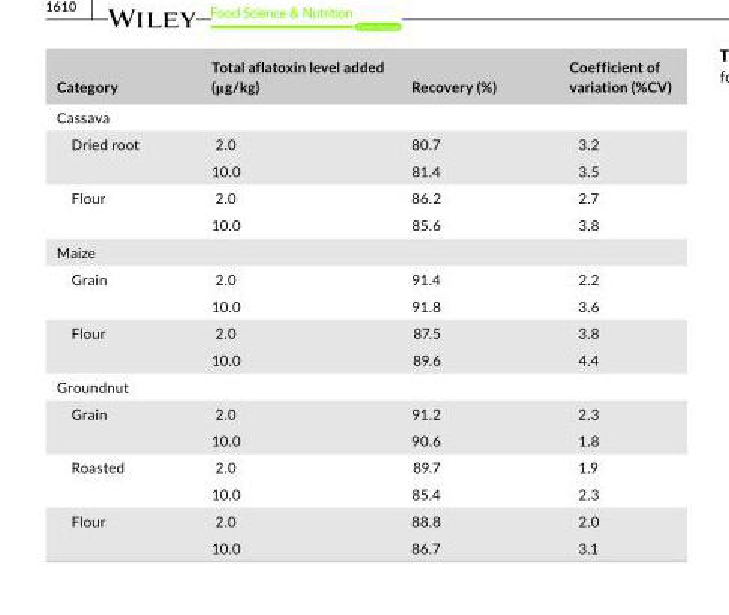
<table><thead><tr><td>Category</td><td>Total aflatoxin level added (μg/kg)</td><td>Recovery (%)</td><td>Coefficient of variation (%CV)</td></tr></thead><tbody><tr><td colspan="4">Cassava</td></tr><tr><td rowspan="2">Dried root</td><td>2.0</td><td>80.7</td><td>3.2</td></tr><tr><td>10.0</td><td>81.4</td><td>3.5</td></tr><tr><td rowspan="2">Flour</td><td>2.0</td><td>86.2</td><td>2.7</td></tr><tr><td>10.0</td><td>85.6</td><td>3.8</td></tr><tr><td colspan="4">Maize</td></tr><tr><td rowspan="2">Grain</td><td>2.0</td><td>91.4</td><td>2.2</td></tr><tr><td>10.0</td><td>91.8</td><td>3.6</td></tr><tr><td rowspan="2">Flour</td><td>2.0</td><td>87.5</td><td>3.8</td></tr><tr><td>10.0</td><td>89.6</td><td>4.4</td></tr><tr><td colspan="4">Groundnut</td></tr><tr><td rowspan="2">Grain</td><td>2.0</td><td>91.2</td><td>2.3</td></tr><tr><td>10.0</td><td>90.6</td><td>1.8</td></tr><tr><td rowspan="2">Roasted</td><td>2.0</td><td>89.7</td><td>1.9</td></tr><tr><td>10.0</td><td>85.4</td><td>2.3</td></tr><tr><td rowspan="2">Flour</td><td>2.0</td><td>88.8</td><td>2.0</td></tr><tr><td>10.0</td><td>86.7</td><td>3.1</td></tr></tbody></table>